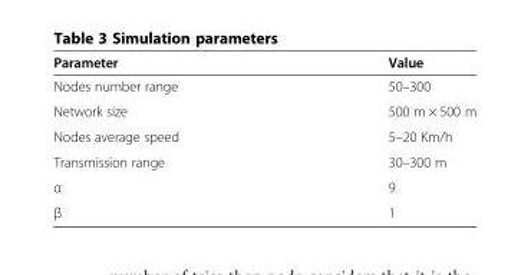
<table><thead><tr><td>Parameter</td><td>Value</td></tr></thead><tbody><tr><td>Nodes number range</td><td>50–300</td></tr><tr><td>Network size</td><td>500 m × 500 m</td></tr><tr><td>Nodes average speed</td><td>5–20 Km/h</td></tr><tr><td>Transmission range</td><td>30–300 m</td></tr><tr><td>α</td><td>9</td></tr><tr><td>β</td><td>1</td></tr></tbody></table>